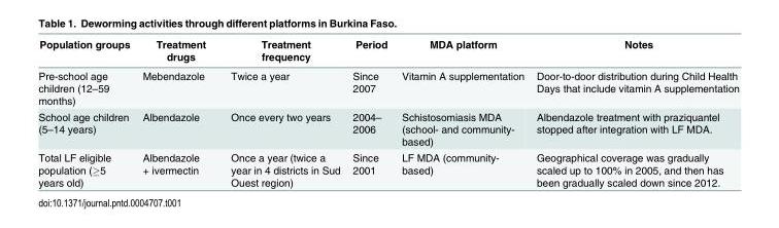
<table><thead><tr><td>Population groups</td><td>Treatment drugs</td><td>Treatment frequency</td><td>Period</td><td>MDA platform</td><td>Notes</td></tr></thead><tbody><tr><td>Pre-school age children (12–59 months)</td><td>Mebendazole</td><td>Twice a year</td><td>Since 2007</td><td>Vitamin A supplementation</td><td>Door-to-door distribution during Child Health Days that include vitamin A supplementation</td></tr><tr><td>School age children (5–14 years)</td><td>Albendazole</td><td>Once every two years</td><td>2004– 2006</td><td>Schistosomiasis MDA (school- and community- based)</td><td>Albendazole treatment with praziquantel stopped after integration with LF MDA.</td></tr><tr><td>Total LF eligible population (≥5 years old)</td><td>Albendazole + ivermectin</td><td>Once a year (twice a year in 4 districts in Sud Ouest region)</td><td>Since 2001</td><td>LF MDA (community- based)</td><td>Geographical coverage was gradually scaled up to 100% in 2005, and then has been gradually scaled down since 2012.</td></tr></tbody></table>